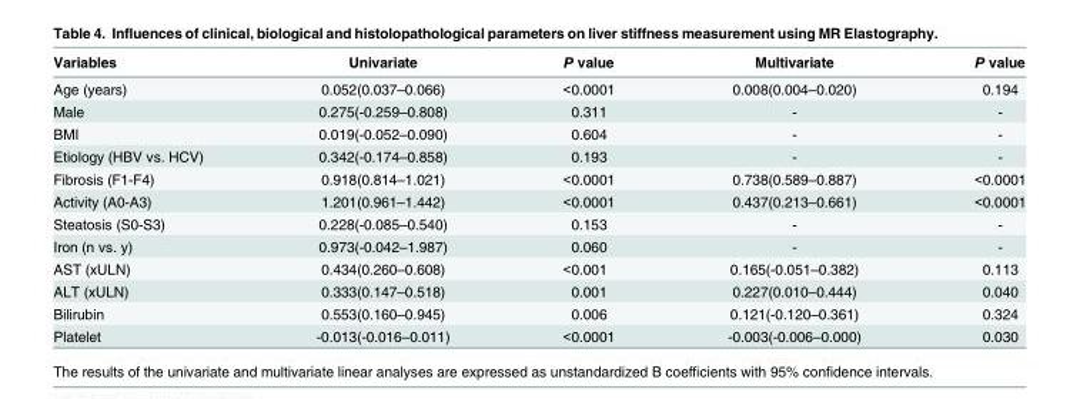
<table><thead><tr><td>Variables</td><td>Univariate</td><td>P value</td><td>Multivariate</td><td>P value</td></tr></thead><tbody><tr><td>Age (years)</td><td>0.052(0.037–0.066)</td><td>&lt;0.0001</td><td>0.008(0.004–0.020)</td><td>0.194</td></tr><tr><td>Male</td><td>0.275(-0.259–0.808)</td><td>0.311</td><td>-</td><td>-</td></tr><tr><td>BMI</td><td>0.019(-0.052–0.090)</td><td>0.604</td><td>-</td><td>-</td></tr><tr><td>Etiology (HBV vs. HCV)</td><td>0.342(-0.174–0.858)</td><td>0.193</td><td>-</td><td>-</td></tr><tr><td>Fibrosis (F1-F4)</td><td>0.918(0.814–1.021)</td><td>&lt;0.0001</td><td>0.738(0.589–0.887)</td><td>&lt;0.0001</td></tr><tr><td>Activity (A0-A3)</td><td>1.201(0.961–1.442)</td><td>&lt;0.0001</td><td>0.437(0.213–0.661)</td><td>&lt;0.0001</td></tr><tr><td>Steatosis (S0-S3)</td><td>0.228(-0.085–0.540)</td><td>0.153</td><td>-</td><td>-</td></tr><tr><td>Iron (n vs. y)</td><td>0.973(-0.042–1.987)</td><td>0.060</td><td>-</td><td>-</td></tr><tr><td>AST (xULN)</td><td>0.434(0.260–0.608)</td><td>&lt;0.001</td><td>0.165(-0.051–0.382)</td><td>0.113</td></tr><tr><td>ALT (xULN)</td><td>0.333(0.147–0.518)</td><td>0.001</td><td>0.227(0.010–0.444)</td><td>0.040</td></tr><tr><td>Bilirubin</td><td>0.553(0.160–0.945)</td><td>0.006</td><td>0.121(-0.120–0.361)</td><td>0.324</td></tr><tr><td>Platelet</td><td>-0.013(-0.016–0.011)</td><td>&lt;0.0001</td><td>-0.003(-0.006–0.000)</td><td>0.030</td></tr></tbody></table>